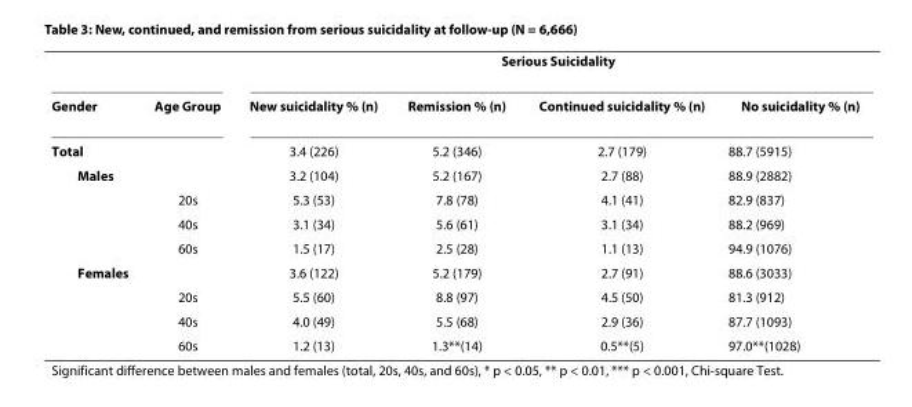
<table><thead><tr><td rowspan="2">Gender</td><td rowspan="2">Age Group</td><td colspan="4">Serious Suicidality</td></tr><tr><td>New suicidality % (n)</td><td>Remission % (n)</td><td>Continued suicidality % (n)</td><td>No suicidality % (n)</td></tr></thead><tbody><tr><td>Total</td><td></td><td>3.4 (226)</td><td>5.2 (346)</td><td>2.7 (179)</td><td>88.7 (5915)</td></tr><tr><td rowspan="4">Males</td><td></td><td>3.2 (104)</td><td>5.2 (167)</td><td>2.7 (88)</td><td>88.9 (2882)</td></tr><tr><td>20s</td><td>5.3 (53)</td><td>7.8 (78)</td><td>4.1 (41)</td><td>82.9 (837)</td></tr><tr><td>40s</td><td>3.1 (34)</td><td>5.6 (61)</td><td>3.1 (34)</td><td>88.2 (969)</td></tr><tr><td>60s</td><td>1.5 (17)</td><td>2.5 (28)</td><td>1.1 (13)</td><td>94.9 (1076)</td></tr><tr><td rowspan="4">Females</td><td></td><td>3.6 (122)</td><td>5.2 (179)</td><td>2.7 (91)</td><td>88.6 (3033)</td></tr><tr><td>20s</td><td>5.5 (60)</td><td>8.8 (97)</td><td>4.5 (50)</td><td>81.3 (912)</td></tr><tr><td>40s</td><td>4.0 (49)</td><td>5.5 (68)</td><td>2.9 (36)</td><td>87.7 (1093)</td></tr><tr><td>60s</td><td>1.2 (13)</td><td>1.3**(14)</td><td>0.5**(5)</td><td>97.0**(1028)</td></tr></tbody></table>